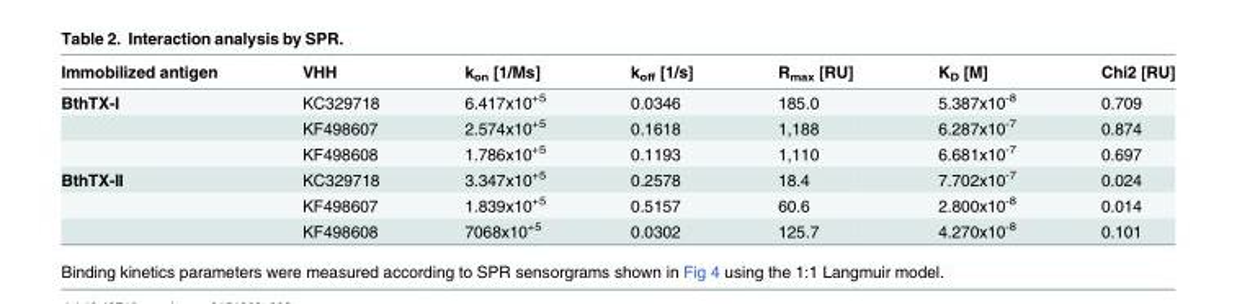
<table><thead><tr><td>Immobilized antigen</td><td>VHH</td><td>k<sub>on</sub> [1/Ms]</td><td>k<sub>off</sub> [1/s]</td><td>R<sub>max</sub> [RU]</td><td>K<sub>D</sub> [M]</td><td>Chi2 [RU]</td></tr></thead><tbody><tr><td rowspan="3">BthTX-I</td><td>KC329718</td><td>6.417x10<sup>+5</sup></td><td>0.0346</td><td>185.0</td><td>5.387x10<sup>-8</sup></td><td>0.709</td></tr><tr><td>KF498607</td><td>2.574x10<sup>+5</sup></td><td>0.1618</td><td>1,188</td><td>6.287x10<sup>-7</sup></td><td>0.874</td></tr><tr><td>KF498608</td><td>1.786x10<sup>+5</sup></td><td>0.1193</td><td>1,110</td><td>6.681x10<sup>-7</sup></td><td>0.697</td></tr><tr><td rowspan="3">BthTX-II</td><td>KC329718</td><td>3.347x10<sup>+5</sup></td><td>0.2578</td><td>18.4</td><td>7.702x10<sup>-7</sup></td><td>0.024</td></tr><tr><td>KF498607</td><td>1.839x10<sup>+5</sup></td><td>0.5157</td><td>60.6</td><td>2.800x10<sup>-8</sup></td><td>0.014</td></tr><tr><td>KF498608</td><td>7068x10<sup>+5</sup></td><td>0.0302</td><td>125.7</td><td>4.270x10<sup>-8</sup></td><td>0.101</td></tr></tbody></table>